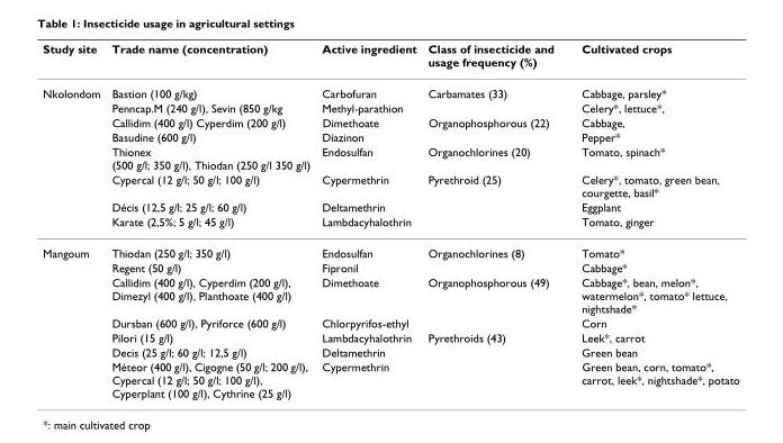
<table><thead><tr><td>Study site</td><td>Trade name (concentration)</td><td>Active ingredient</td><td>Class of insecticide and usage frequency (%)</td><td>Cultivated crops</td></tr></thead><tbody><tr><td rowspan="8">Nkolondom</td><td>Bastion (100 g/kg)</td><td>Carbofuran</td><td>Carbamates (33)</td><td>Cabbage, parsley*</td></tr><tr><td>Penncap.M (240 g/l), Sevin (850 g/kg</td><td>Methyl-parathion</td><td></td><td>Celery*, lettuce*,</td></tr><tr><td>Callidim (400 g/l) Cyperdim (200 g/l)</td><td>Dimethoate</td><td>Organophosphorous (22)</td><td>Cabbage,</td></tr><tr><td>Basudine (600 g/l)</td><td>Diazinon</td><td></td><td>Pepper*</td></tr><tr><td>Thionex (500 g/l; 350 g/l), Thiodan (250 g/l 350 g/l)</td><td>Endosulfan</td><td>Organochlorines (20)</td><td>Tomato, spinach*</td></tr><tr><td>Cypercal (12 g/l; 50 g/l; 100 g/l)</td><td>Cypermethrin</td><td>Pyrethroid (25)</td><td>Celery*, tomato, green bean, courgette, basil*</td></tr><tr><td>Décis (12,5 g/l; 25 g/l; 60 g/l)</td><td>Deltamethrin</td><td></td><td>Eggplant</td></tr><tr><td>Karate (2,5%; 5 g/l; 45 g/l)</td><td>Lambdacyhalothrin</td><td></td><td>Tomato, ginger</td></tr><tr><td rowspan="7">Mangoum</td><td>Thiodan (250 g/l; 350 g/l)</td><td>Endosulfan</td><td>Organochlorines (8)</td><td>Tomato*</td></tr><tr><td>Regent (50 g/l)</td><td>Fipronil</td><td></td><td>Cabbage*</td></tr><tr><td>Callidim (400 g/l), Cyperdim (200 g/l), Dimezyl (400 g/l), Planthoate (400 g/l)</td><td>Dimethoate</td><td>Organophosphorous (49)</td><td>Cabbage*, bean, melon*, watermelon*, tomato* lettuce, nightshade*</td></tr><tr><td>Dursban (600 g/l), Pyriforce (600 g/l)</td><td>Chlorpyrifos-ethyl</td><td></td><td>Corn</td></tr><tr><td>Pilori (15 g/l)</td><td>Lambdacyhalothrin</td><td>Pyrethroids (43)</td><td>Leek*, carrot</td></tr><tr><td>Decis (25 g/l; 60 g/l; 12,5 g/l)</td><td>Deltamethrin</td><td></td><td>Green bean</td></tr><tr><td>Méteor (400 g/l), Cigogne (50 g/l; 200 g/l), Cypercal (12 g/l; 50 g/l; 100 g/l), Cyperplant (100 g/l), Cythrine (25 g/l)</td><td>Cypermethrin</td><td></td><td>Green bean, corn, tomato*, carrot, leek*, nightshade*, potato</td></tr></tbody></table>